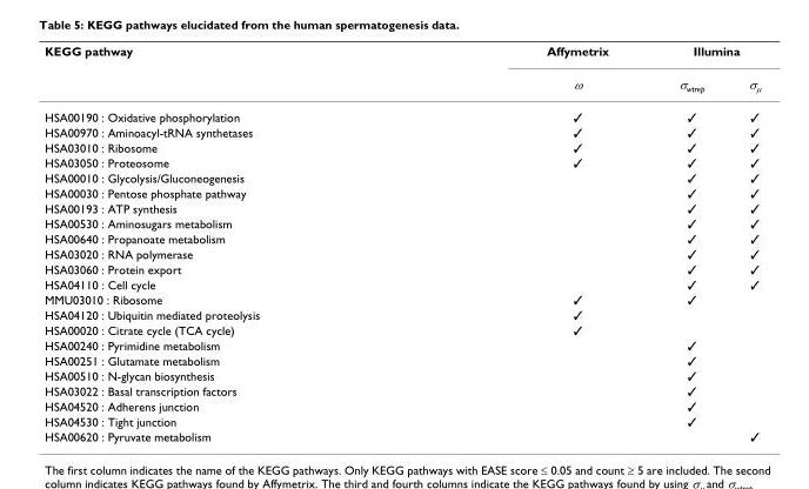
<table><thead><tr><td rowspan="2">KEGG pathway</td><td rowspan="2">Affymetrix ω</td><td colspan="2">Illumina</td></tr><tr><td>σ<sub>wtrep</sub></td><td>σ<sub>μ</sub></td></tr></thead><tbody><tr><td>HSA00190 : Oxidative phosphorylation</td><td>✓</td><td>✓</td><td>✓</td></tr><tr><td>HSA00970 : Aminoacyl-tRNA synthetases</td><td>✓</td><td>✓</td><td>✓</td></tr><tr><td>HSA03010 : Ribosome</td><td>✓</td><td>✓</td><td>✓</td></tr><tr><td>HSA03050 : Proteosome</td><td>✓</td><td>✓</td><td>✓</td></tr><tr><td>HSA00010 : Glycolysis/Gluconeogenesis</td><td></td><td>✓</td><td>✓</td></tr><tr><td>HSA00030 : Pentose phosphate pathway</td><td></td><td>✓</td><td>✓</td></tr><tr><td>HSA00193 : ATP synthesis</td><td></td><td>✓</td><td>✓</td></tr><tr><td>HSA00530 : Aminosugars metabolism</td><td></td><td>✓</td><td>✓</td></tr><tr><td>HSA00640 : Propanoate metabolism</td><td></td><td>✓</td><td>✓</td></tr><tr><td>HSA03020 : RNA polymerase</td><td></td><td>✓</td><td>✓</td></tr><tr><td>HSA03060 : Protein export</td><td></td><td>✓</td><td>✓</td></tr><tr><td>HSA04110 : Cell cycle</td><td></td><td>✓</td><td>✓</td></tr><tr><td>MMU03010 : Ribosome</td><td>✓</td><td>✓</td><td></td></tr><tr><td>HSA04120 : Ubiquitin mediated proteolysis</td><td>✓</td><td></td><td></td></tr><tr><td>HSA00020 : Citrate cycle (TCA cycle)</td><td>✓</td><td></td><td></td></tr><tr><td>HSA00240 : Pyrimidine metabolism</td><td></td><td>✓</td><td></td></tr><tr><td>HSA00251 : Glutamate metabolism</td><td></td><td>✓</td><td></td></tr><tr><td>HSA00510 : N-glycan biosynthesis</td><td></td><td>✓</td><td></td></tr><tr><td>HSA03022 : Basal transcription factors</td><td></td><td>✓</td><td></td></tr><tr><td>HSA04520 : Adherens junction</td><td></td><td>✓</td><td></td></tr><tr><td>HSA04530 : Tight junction</td><td></td><td>✓</td><td></td></tr><tr><td>HSA00620 : Pyruvate metabolism</td><td></td><td></td><td>✓</td></tr></tbody></table>